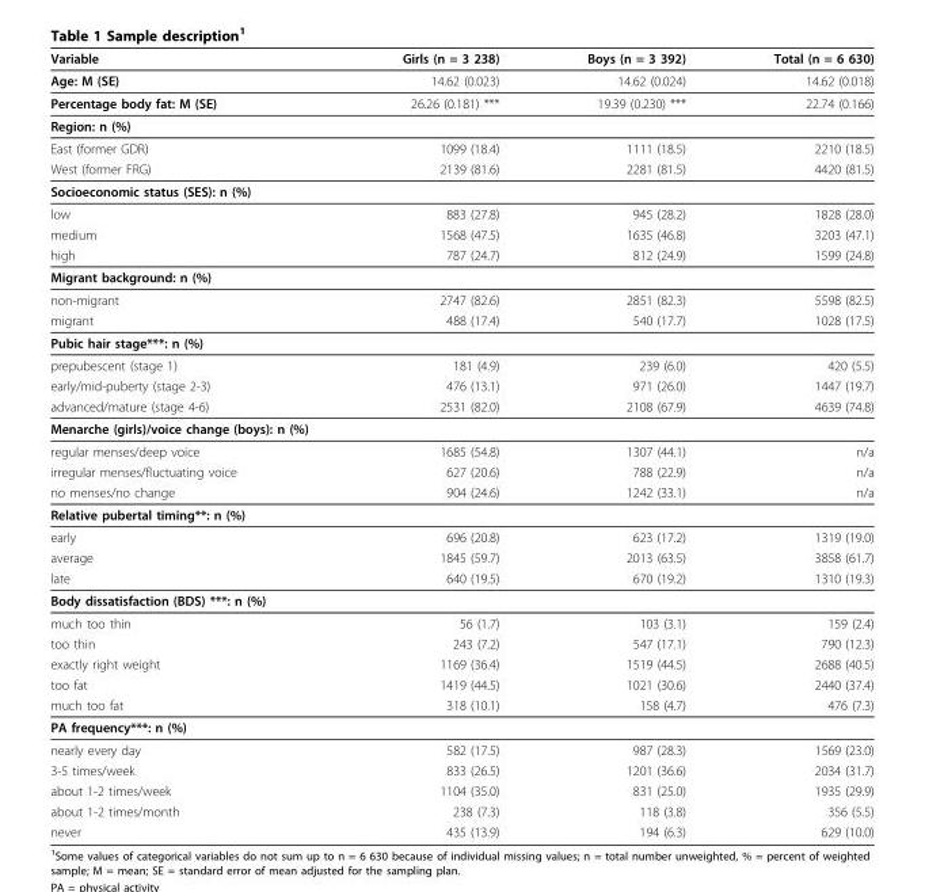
<table><thead><tr><td>Variable</td><td>Girls (n = 3 238)</td><td>Boys (n = 3 392)</td><td>Total (n = 6 630)</td></tr></thead><tbody><tr><td>Age: M (SE)</td><td>14.62 (0.023)</td><td>14.62 (0.024)</td><td>14.62 (0.018)</td></tr><tr><td>Percentage body fat: M (SE)</td><td>26.26 (0.181) ***</td><td>19.39 (0.230) ***</td><td>22.74 (0.166)</td></tr><tr><td colspan="4">Region: n (%)</td></tr><tr><td>East (former GDR)</td><td>1099 (18.4)</td><td>1111 (18.5)</td><td>2210 (18.5)</td></tr><tr><td>West (former FRG)</td><td>2139 (81.6)</td><td>2281 (81.5)</td><td>4420 (81.5)</td></tr><tr><td colspan="4">Socioeconomic status (SES): n (%)</td></tr><tr><td>low</td><td>883 (27.8)</td><td>945 (28.2)</td><td>1828 (28.0)</td></tr><tr><td>medium</td><td>1568 (47.5)</td><td>1635 (46.8)</td><td>3203 (47.1)</td></tr><tr><td>high</td><td>787 (24.7)</td><td>812 (24.9)</td><td>1599 (24.8)</td></tr><tr><td colspan="4">Migrant background: n (%)</td></tr><tr><td>non-migrant</td><td>2747 (82.6)</td><td>2851 (82.3)</td><td>5598 (82.5)</td></tr><tr><td>migrant</td><td>488 (17.4)</td><td>540 (17.7)</td><td>1028 (17.5)</td></tr><tr><td colspan="4">Pubic hair stage***: n (%)</td></tr><tr><td>prepubescent (stage 1)</td><td>181 (4.9)</td><td>239 (6.0)</td><td>420 (5.5)</td></tr><tr><td>early/mid-puberty (stage 2-3)</td><td>476 (13.1)</td><td>971 (26.0)</td><td>1447 (19.7)</td></tr><tr><td>advanced/mature (stage 4-6)</td><td>2531 (82.0)</td><td>2108 (67.9)</td><td>4639 (74.8)</td></tr><tr><td colspan="4">Menarche (girls)/voice change (boys): n (%)</td></tr><tr><td>regular menses/deep voice</td><td>1685 (54.8)</td><td>1307 (44.1)</td><td>n/a</td></tr><tr><td>irregular menses/fluctuating voice</td><td>627 (20.6)</td><td>788 (22.9)</td><td>n/a</td></tr><tr><td>no menses/no change</td><td>904 (24.6)</td><td>1242 (33.1)</td><td>n/a</td></tr><tr><td colspan="4">Relative pubertal timing**: n (%)</td></tr><tr><td>early</td><td>696 (20.8)</td><td>623 (17.2)</td><td>1319 (19.0)</td></tr><tr><td>average</td><td>1845 (59.7)</td><td>2013 (63.5)</td><td>3858 (61.7)</td></tr><tr><td>late</td><td>640 (19.5)</td><td>670 (19.2)</td><td>1310 (19.3)</td></tr><tr><td colspan="4">Body dissatisfaction (BDS) ***: n (%)</td></tr><tr><td>much too thin</td><td>56 (1.7)</td><td>103 (3.1)</td><td>159 (2.4)</td></tr><tr><td>too thin</td><td>243 (7.2)</td><td>547 (17.1)</td><td>790 (12.3)</td></tr><tr><td>exactly right weight</td><td>1169 (36.4)</td><td>1519 (44.5)</td><td>2688 (40.5)</td></tr><tr><td>too fat</td><td>1419 (44.5)</td><td>1021 (30.6)</td><td>2440 (37.4)</td></tr><tr><td>much too fat</td><td>318 (10.1)</td><td>158 (4.7)</td><td>476 (7.3)</td></tr><tr><td colspan="4">PA frequency***: n (%)</td></tr><tr><td>nearly every day</td><td>582 (17.5)</td><td>987 (28.3)</td><td>1569 (23.0)</td></tr><tr><td>3-5 times/week</td><td>833 (26.5)</td><td>1201 (36.6)</td><td>2034 (31.7)</td></tr><tr><td>about 1-2 times/week</td><td>1104 (35.0)</td><td>831 (25.0)</td><td>1935 (29.9)</td></tr><tr><td>about 1-2 times/month</td><td>238 (7.3)</td><td>118 (3.8)</td><td>356 (5.5)</td></tr><tr><td>never</td><td>435 (13.9)</td><td>194 (6.3)</td><td>629 (10.0)</td></tr></tbody></table>